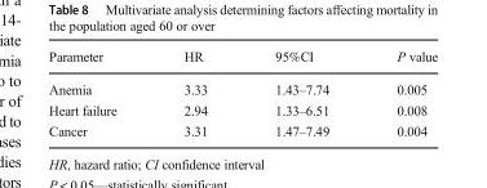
<table><thead><tr><td>Parameter</td><td>HR</td><td>95%CI</td><td>P value</td></tr></thead><tbody><tr><td>Anemia</td><td>3.33</td><td>1.43–7.74</td><td>0.005</td></tr><tr><td>Heart failure</td><td>2.94</td><td>1.33–6.51</td><td>0.008</td></tr><tr><td>Cancer</td><td>3.31</td><td>1.47–7.49</td><td>0.004</td></tr></tbody></table>